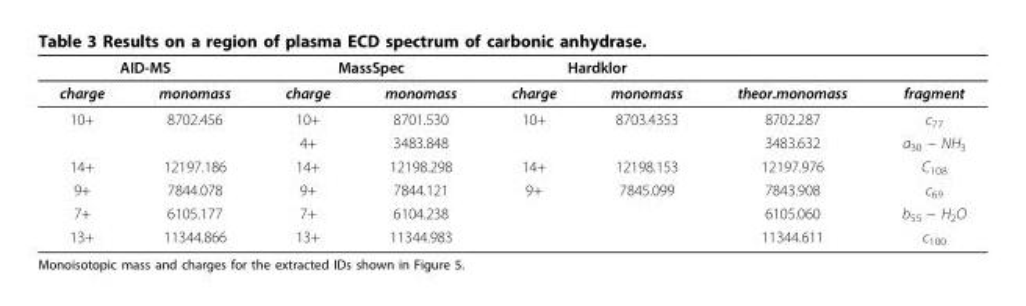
<table><thead><tr><td colspan="2">AID-MS</td><td colspan="2">MassSpec</td><td colspan="2">Hardklor</td><td rowspan="2">theor.monomass</td><td rowspan="2">fragment</td></tr><tr><td>charge</td><td>monomass</td><td>charge</td><td>monomass</td><td>charge</td><td>monomass</td></tr></thead><tbody><tr><td rowspan="2">10+</td><td>8702.456</td><td>10+</td><td>8701.530</td><td>10+</td><td>8703.4353</td><td>8702.287</td><td>c<sub>77</sub></td></tr><tr><td></td><td>4+</td><td>3483.848</td><td></td><td></td><td>3483.632</td><td>a<sub>30</sub> − NH<sub>3</sub></td></tr><tr><td>14+</td><td>12197.186</td><td>14+</td><td>12198.298</td><td>14+</td><td>12198.153</td><td>12197.976</td><td>C<sub>108</sub></td></tr><tr><td>9+</td><td>7844.078</td><td>9+</td><td>7844.121</td><td>9+</td><td>7845.099</td><td>7843.908</td><td>c<sub>69</sub></td></tr><tr><td>7+</td><td>6105.177</td><td>7+</td><td>6104.238</td><td></td><td></td><td>6105.060</td><td>b<sub>55</sub> − H<sub>2</sub>O</td></tr><tr><td>13+</td><td>11344.866</td><td>13+</td><td>11344.983</td><td></td><td></td><td>11344.611</td><td>c<sub>100</sub></td></tr></tbody></table>